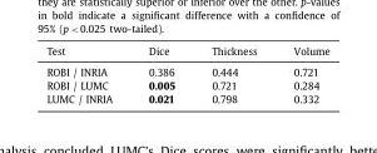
<table><thead><tr><td>Test</td><td>Dice</td><td>Thickness</td><td>Volume</td></tr></thead><tbody><tr><td>ROBI / INRIA</td><td>0.386</td><td>0.4 4 4</td><td>0.721</td></tr><tr><td>ROBI / LUMC</td><td>0.005</td><td>0.721</td><td>0.284</td></tr><tr><td>LUMC / INRIA</td><td>0.021</td><td>0.798</td><td>0.332</td></tr></tbody></table>